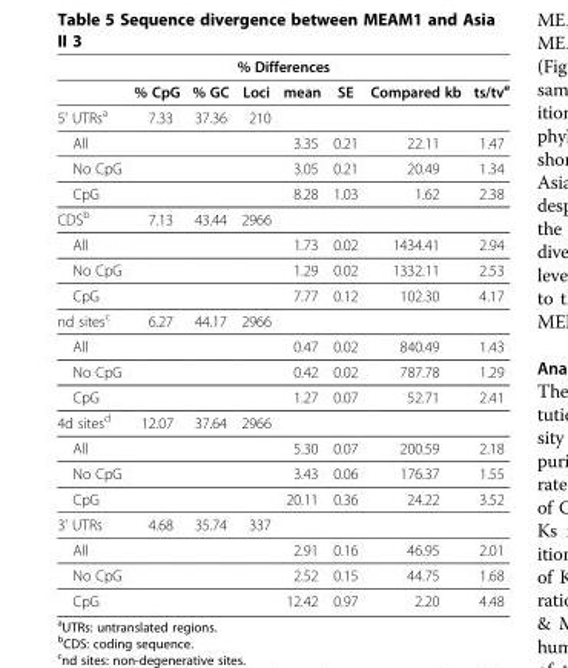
<table><thead><tr><td colspan="8">% Differences</td></tr><tr><td></td><td>% CpG</td><td>% GC</td><td>Loci</td><td>mean</td><td>SE</td><td>Compared kb</td><td>ts/tv<sup>e</sup></td></tr></thead><tbody><tr><td>5&#x27; UTRs<sup>a</sup></td><td>7.33</td><td>37.36</td><td>210</td><td></td><td></td><td></td><td></td></tr><tr><td>All</td><td></td><td></td><td></td><td>3.35</td><td>0.21</td><td>22.11</td><td>1.47</td></tr><tr><td>No CpG</td><td></td><td></td><td></td><td>3.05</td><td>0.21</td><td>20.49</td><td>1.34</td></tr><tr><td>CpG</td><td></td><td></td><td></td><td>8.28</td><td>1.03</td><td>1.62</td><td>2.38</td></tr><tr><td>CDS<sup>b</sup></td><td>7.13</td><td>43.44</td><td>2966</td><td></td><td></td><td></td><td></td></tr><tr><td>All</td><td></td><td></td><td></td><td>1.73</td><td>0.02</td><td>1434.41</td><td>2.94</td></tr><tr><td>No CpG</td><td></td><td></td><td></td><td>1.29</td><td>0.02</td><td>1332.11</td><td>2.53</td></tr><tr><td>CpG</td><td></td><td></td><td></td><td>7.77</td><td>0.12</td><td>102.30</td><td>4.17</td></tr><tr><td>nd sites<sup>c</sup></td><td>6.27</td><td>44.17</td><td>2966</td><td></td><td></td><td></td><td></td></tr><tr><td>All</td><td></td><td></td><td></td><td>0.47</td><td>0.02</td><td>840.49</td><td>1.43</td></tr><tr><td>No CpG</td><td></td><td></td><td></td><td>0.42</td><td>0.02</td><td>787.78</td><td>1.29</td></tr><tr><td>CpG</td><td></td><td></td><td></td><td>1.27</td><td>0.07</td><td>52.71</td><td>2.41</td></tr><tr><td>4d sites<sup>d</sup></td><td>12.07</td><td>37.64</td><td>2966</td><td></td><td></td><td></td><td></td></tr><tr><td>All</td><td></td><td></td><td></td><td>5.30</td><td>0.07</td><td>200.59</td><td>2.18</td></tr><tr><td>No CpG</td><td></td><td></td><td></td><td>3.43</td><td>0.06</td><td>176.37</td><td>1.55</td></tr><tr><td>CpG</td><td></td><td></td><td></td><td>20.11</td><td>0.36</td><td>24.22</td><td>3.52</td></tr><tr><td>3&#x27; UTRs</td><td>4.68</td><td>35.74</td><td>337</td><td></td><td></td><td></td><td></td></tr><tr><td>All</td><td></td><td></td><td></td><td>2.91</td><td>0.16</td><td>46.95</td><td>2.01</td></tr><tr><td>No CpG</td><td></td><td></td><td></td><td>2.52</td><td>0.15</td><td>44.75</td><td>1.68</td></tr><tr><td>CpG</td><td></td><td></td><td></td><td>12.42</td><td>0.97</td><td>2.20</td><td>4.48</td></tr></tbody></table>